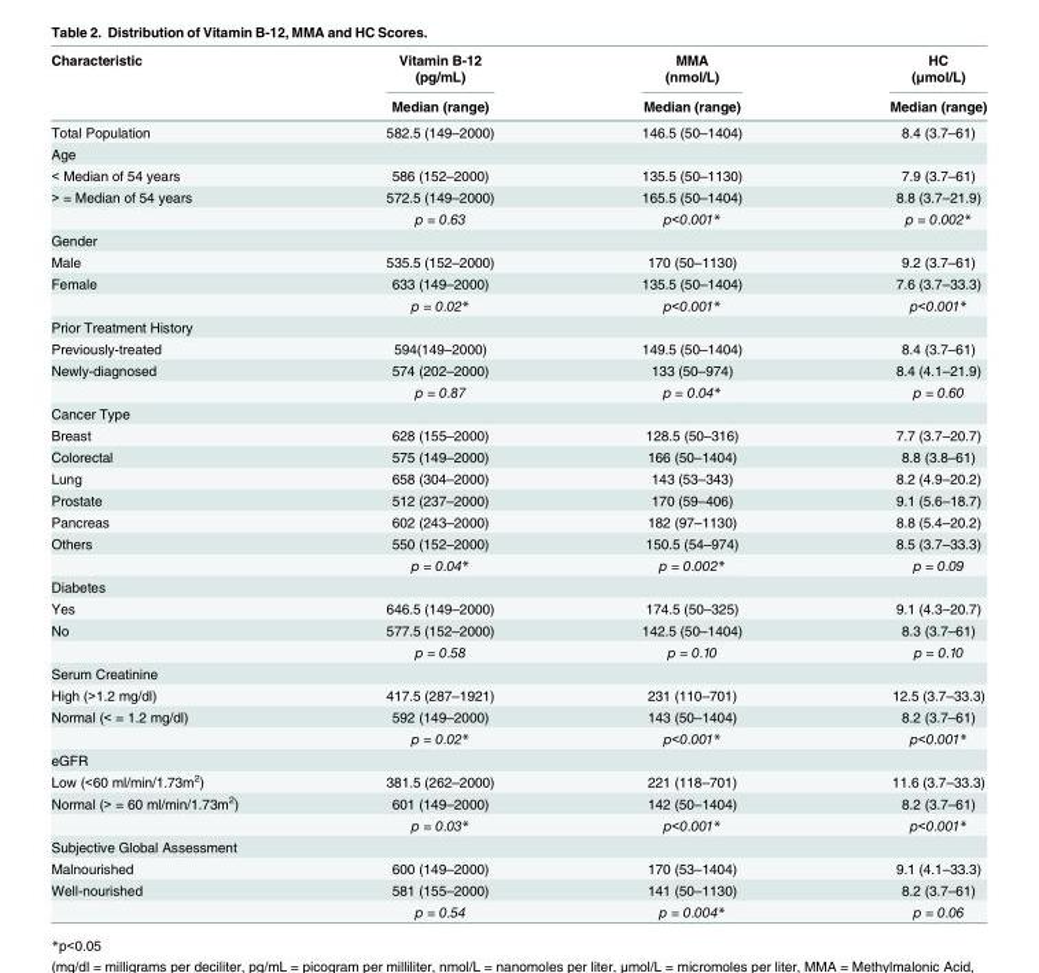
<table><thead><tr><td rowspan="3">Characteristic</td><td rowspan="3">Vitamin B-12 (pg/mL) Median (range)</td><td rowspan="3">MMA (nmol/L) Median (range)</td><td rowspan="3">HC (μmol/L) Median (range)</td></tr><tr></tr><tr></tr></thead><tbody><tr><td>Total Population</td><td>582.5 (149–2000)</td><td>146.5 (50–1404)</td><td>8.4 (3.7–61)</td></tr><tr><td colspan="4">Age</td></tr><tr><td>&lt; Median of 54 years</td><td>586 (152–2000)</td><td>135.5 (50–1130)</td><td>7.9 (3.7–61)</td></tr><tr><td rowspan="2">&gt; = Median of 54 years</td><td>572.5 (149–2000)</td><td>165.5 (50–1404)</td><td>8.8 (3.7–21.9)</td></tr><tr><td>p = 0.63</td><td>p&lt;0.001*</td><td>p = 0.002*</td></tr><tr><td colspan="4">Gender</td></tr><tr><td>Male</td><td>535.5 (152–2000)</td><td>170 (50–1130)</td><td>9.2 (3.7–61)</td></tr><tr><td rowspan="2">Female</td><td>633 (149–2000)</td><td>135.5 (50–1404)</td><td>7.6 (3.7–33.3)</td></tr><tr><td>p = 0.02*</td><td>p&lt;0.001*</td><td>p&lt;0.001*</td></tr><tr><td colspan="4">Prior Treatment History</td></tr><tr><td>Previously-treated</td><td>594(149–2000)</td><td>149.5 (50–1404)</td><td>8.4 (3.7–61)</td></tr><tr><td rowspan="2">Newly-diagnosed</td><td>574 (202–2000)</td><td>133 (50–974)</td><td>8.4 (4.1–21.9)</td></tr><tr><td>p = 0.87</td><td>p = 0.04*</td><td>p = 0.60</td></tr><tr><td colspan="4">Cancer Type</td></tr><tr><td>Breast</td><td>628 (155–2000)</td><td>128.5 (50–316)</td><td>7.7 (3.7–20.7)</td></tr><tr><td>Colorectal</td><td>575 (149–2000)</td><td>166 (50–1404)</td><td>8.8 (3.8–61)</td></tr><tr><td>Lung</td><td>658 (304–2000)</td><td>143 (53–343)</td><td>8.2 (4.9–20.2)</td></tr><tr><td>Prostate</td><td>512 (237–2000)</td><td>170 (59–406)</td><td>9.1 (5.6–18.7)</td></tr><tr><td>Pancreas</td><td>602 (243–2000)</td><td>182 (97–1130)</td><td>8.8 (5.4–20.2)</td></tr><tr><td rowspan="2">Others</td><td>550 (152–2000)</td><td>150.5 (54–974)</td><td>8.5 (3.7–33.3)</td></tr><tr><td>p = 0.04*</td><td>p = 0.002*</td><td>p = 0.09</td></tr><tr><td colspan="4">Diabetes</td></tr><tr><td>Yes</td><td>646.5 (149–2000)</td><td>174.5 (50–325)</td><td>9.1 (4.3–20.7)</td></tr><tr><td rowspan="2">No</td><td>577.5 (152–2000)</td><td>142.5 (50–1404)</td><td>8.3 (3.7–61)</td></tr><tr><td>p = 0.58</td><td>p = 0.10</td><td>p = 0.10</td></tr><tr><td colspan="4">Serum Creatinine</td></tr><tr><td>High (&gt;1.2 mg/dl)</td><td>417.5 (287–1921)</td><td>231 (110–701)</td><td>12.5 (3.7–33.3)</td></tr><tr><td rowspan="2">Normal (&lt; = 1.2 mg/dl)</td><td>592 (149–2000)</td><td>143 (50–1404)</td><td>8.2 (3.7–61)</td></tr><tr><td>p = 0.02*</td><td>p&lt;0.001*</td><td>p&lt;0.001*</td></tr><tr><td colspan="4">eGFR</td></tr><tr><td>Low (&lt;60 ml/min/1.73m<sup>2</sup>)</td><td>381.5 (262–2000)</td><td>221 (118–701)</td><td>11.6 (3.7–33.3)</td></tr><tr><td rowspan="2">Normal (&gt; = 60 ml/min/1.73m<sup>2</sup>)</td><td>601 (149–2000)</td><td>142 (50–1404)</td><td>8.2 (3.7–61)</td></tr><tr><td>p = 0.03*</td><td>p&lt;0.001*</td><td>p&lt;0.001*</td></tr><tr><td colspan="4">Subjective Global Assessment</td></tr><tr><td>Malnourished</td><td>600 (149–2000)</td><td>170 (53–1404)</td><td>9.1 (4.1–33.3)</td></tr><tr><td rowspan="2">Well-nourished</td><td>581 (155–2000)</td><td>141 (50–1130)</td><td>8.2 (3.7–61)</td></tr><tr><td>p = 0.54</td><td>p = 0.004*</td><td>p = 0.06</td></tr></tbody></table>